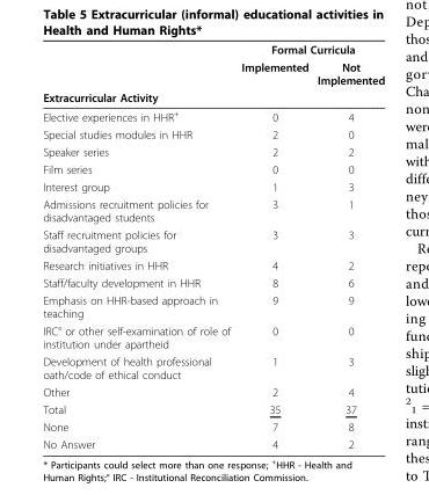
<table><thead><tr><td rowspan="3">Extracurricular Activity</td><td colspan="2">Formal Curricula</td></tr><tr><td rowspan="2">Implemented</td><td rowspan="2">Not Implemented</td></tr><tr></tr></thead><tbody><tr><td>Elective experiences in HHR<sup>+</sup></td><td>0</td><td>4</td></tr><tr><td>Special studies modules in HHR</td><td>2</td><td>0</td></tr><tr><td>Speaker series</td><td>2</td><td>2</td></tr><tr><td>Film series</td><td>0</td><td>0</td></tr><tr><td>Interest group</td><td>1</td><td>3</td></tr><tr><td>Admissions recruitment policies for disadvantaged students</td><td>3</td><td>1</td></tr><tr><td>Staff recruitment policies for disadvantaged groups</td><td>3</td><td>3</td></tr><tr><td>Research initiatives in HHR</td><td>4</td><td>2</td></tr><tr><td>Staff/faculty development in HHR</td><td>8</td><td>6</td></tr><tr><td>Emphasis on HHR-based approach in teaching</td><td>9</td><td>9</td></tr><tr><td>IRC° or other self-examination of role of institution under apartheid</td><td>0</td><td>0</td></tr><tr><td>Development of health professional oath/code of ethical conduct</td><td>1</td><td>3</td></tr><tr><td>Other</td><td>2</td><td>4</td></tr><tr><td>Total</td><td>35</td><td>37</td></tr><tr><td>None</td><td>7</td><td>8</td></tr><tr><td>No Answer</td><td>4</td><td>2</td></tr></tbody></table>